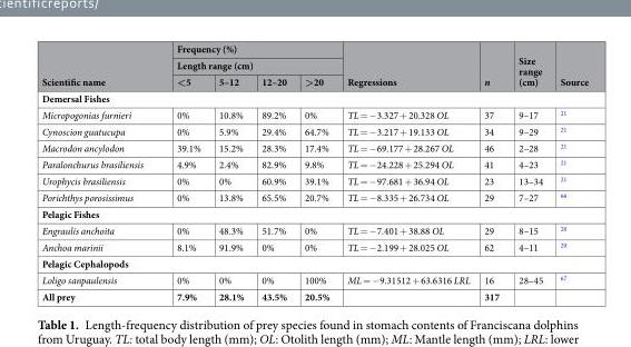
<table><thead><tr><td rowspan="3">Scientific name</td><td rowspan="2" colspan="4">Frequency (%) Length range (cm)</td><td rowspan="3">Regressions</td><td rowspan="3">n</td><td rowspan="3">Size range (cm)</td><td rowspan="3">Source</td></tr><tr></tr><tr><td>&lt;5</td><td>5–12</td><td>12–20</td><td>&gt;20</td></tr></thead><tbody><tr><td colspan="9">Demersal Fishes</td></tr><tr><td>Micropogonias furnieri</td><td>0%</td><td>10.8%</td><td>89.2%</td><td>0%</td><td>TL = −3.327 + 20.328 OL</td><td>37</td><td>9–17</td><td><sup>21</sup></td></tr><tr><td>Cynoscion guatucupa</td><td>0%</td><td>5.9%</td><td>29.4%</td><td>64.7%</td><td>TL = −3.217 + 19.133 OL</td><td>34</td><td>9–29</td><td><sup>21</sup></td></tr><tr><td>Macrodon ancylodon</td><td>39.1%</td><td>15.2%</td><td>28.3%</td><td>17.4%</td><td>TL = −69.177 + 28.267 OL</td><td>46</td><td>2–28</td><td><sup>21</sup></td></tr><tr><td>Paralonchurus brasiliensis</td><td>4.9%</td><td>2.4%</td><td>82.9%</td><td>9.8%</td><td>TL = −24.228 + 25.294 OL</td><td>41</td><td>4–23</td><td><sup>21</sup></td></tr><tr><td>Urophycis brasiliensis</td><td>0%</td><td>0%</td><td>60.9%</td><td>39.1%</td><td>TL = −97.681 + 36.94 OL</td><td>23</td><td>13–34</td><td><sup>21</sup></td></tr><tr><td>Porichthys porosissimus</td><td>0%</td><td>13.8%</td><td>65.5%</td><td>20.7%</td><td>TL = −8.335 + 26.734 OL</td><td>29</td><td>7–27</td><td><sup>66</sup></td></tr><tr><td colspan="9">Pelagic Fishes</td></tr><tr><td>Engraulis anchoita</td><td>0%</td><td>48.3%</td><td>51.7%</td><td>0%</td><td>TL = −7.401 + 38.88 OL</td><td>29</td><td>8–15</td><td><sup>20</sup></td></tr><tr><td>Anchoa marinii</td><td>8.1%</td><td>91.9%</td><td>0%</td><td>0%</td><td>TL = −2.199 + 28.025 OL</td><td>62</td><td>4–11</td><td><sup>20</sup></td></tr><tr><td colspan="9">Pelagic Cephalopods</td></tr><tr><td>Loligo sanpaulensis</td><td>0%</td><td>0%</td><td>0%</td><td>100%</td><td>ML = −9.31512 + 63.6316 LRL</td><td>16</td><td>28–45</td><td><sup>67</sup></td></tr><tr><td>All prey</td><td>7.9%</td><td>28.1%</td><td>43.5%</td><td>20.5%</td><td></td><td>317</td><td></td><td></td></tr></tbody></table>